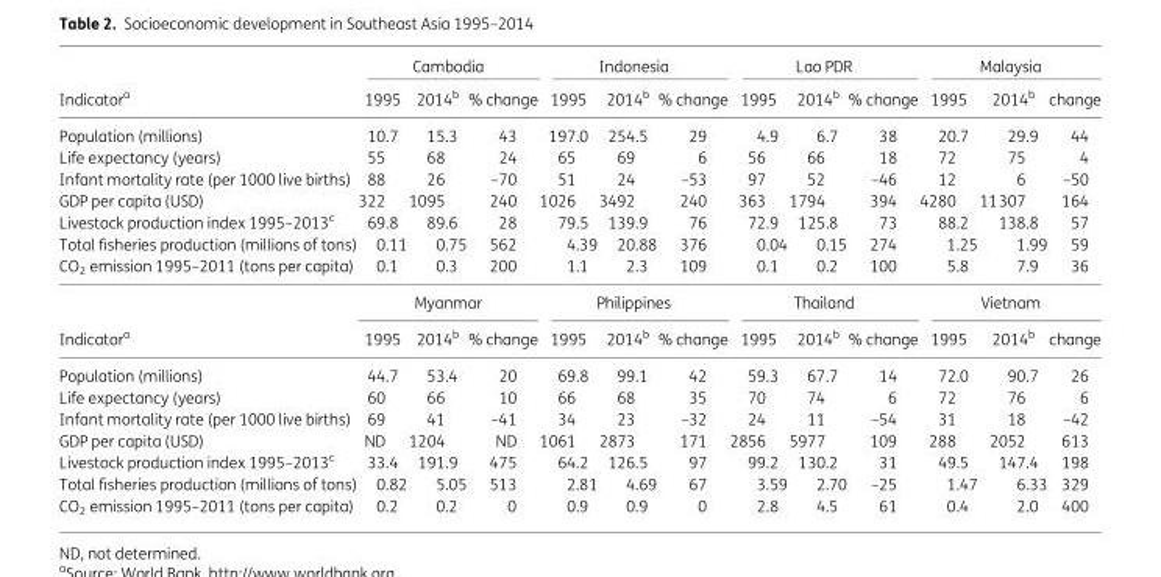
<table><thead><tr><td rowspan="2">Indicator<sup>a</sup></td><td colspan="3">Cambodia</td><td colspan="3">Indonesia</td><td colspan="3">Lao PDR</td><td colspan="3">Malaysia</td></tr><tr><td>1995</td><td>2014<sup>b</sup></td><td>% change</td><td>1995</td><td>2014<sup>b</sup></td><td>% change</td><td>1995</td><td>2014<sup>b</sup></td><td>% change</td><td>1995</td><td>2014<sup>b</sup></td><td>change</td></tr></thead><tbody><tr><td>Population (millions)</td><td>10.7</td><td>15.3</td><td>43</td><td>197.0</td><td>254.5</td><td>29</td><td>4.9</td><td>6.7</td><td>38</td><td>20.7</td><td>29.9</td><td>44</td></tr><tr><td>Life expectancy (years)</td><td>55</td><td>68</td><td>24</td><td>65</td><td>69</td><td>6</td><td>56</td><td>66</td><td>18</td><td>72</td><td>75</td><td>4</td></tr><tr><td>Infant mortality rate (per 1000 live births)</td><td>88</td><td>26</td><td>–70</td><td>51</td><td>24</td><td>–53</td><td>97</td><td>52</td><td>–46</td><td>12</td><td>6</td><td>–50</td></tr><tr><td>GDP per capita (USD)</td><td>322</td><td>1095</td><td>240</td><td>1026</td><td>3492</td><td>240</td><td>363</td><td>1794</td><td>394</td><td>4280</td><td>11307</td><td>164</td></tr><tr><td>Livestock production index 1995–2013<sup>c</sup></td><td>69.8</td><td>89.6</td><td>28</td><td>79.5</td><td>139.9</td><td>76</td><td>72.9</td><td>125.8</td><td>73</td><td>88.2</td><td>138.8</td><td>57</td></tr><tr><td>Total fisheries production (millions of tons)</td><td>0.11</td><td>0.75</td><td>562</td><td>4.39</td><td>20.88</td><td>376</td><td>0.04</td><td>0.15</td><td>274</td><td>1.25</td><td>1.99</td><td>59</td></tr><tr><td rowspan="2">CO<sub>2</sub> emission 1995–2011 (tons per capita)</td><td>0.1</td><td>0.3</td><td>200</td><td>1.1</td><td>2.3</td><td>109</td><td>0.1</td><td>0.2</td><td>100</td><td>5.8</td><td>7.9</td><td>36</td></tr><tr><td colspan="3">Myanmar</td><td colspan="3">Philippines</td><td colspan="3">Thailand</td><td colspan="3">Vietnam</td></tr><tr><td>Indicator<sup>a</sup></td><td>1995</td><td>2014<sup>b</sup></td><td>% change</td><td>1995</td><td>2014<sup>b</sup></td><td>% change</td><td>1995</td><td>2014<sup>b</sup></td><td>% change</td><td>1995</td><td>2014<sup>b</sup></td><td>change</td></tr><tr><td>Population (millions)</td><td>44.7</td><td>53.4</td><td>20</td><td>69.8</td><td>99.1</td><td>42</td><td>59.3</td><td>67.7</td><td>14</td><td>72.0</td><td>90.7</td><td>26</td></tr><tr><td>Life expectancy (years)</td><td>60</td><td>66</td><td>10</td><td>66</td><td>68</td><td>35</td><td>70</td><td>74</td><td>6</td><td>72</td><td>76</td><td>6</td></tr><tr><td>Infant mortality rate (per 1000 live births)</td><td>69</td><td>41</td><td>–41</td><td>34</td><td>23</td><td>–32</td><td>24</td><td>11</td><td>–54</td><td>31</td><td>18</td><td>–42</td></tr><tr><td>GDP per capita (USD)</td><td>ND</td><td>1204</td><td>ND</td><td>1061</td><td>2873</td><td>171</td><td>2856</td><td>5977</td><td>109</td><td>288</td><td>2052</td><td>613</td></tr><tr><td>Livestock production index 1995–2013<sup>c</sup></td><td>33.4</td><td>191.9</td><td>475</td><td>64.2</td><td>126.5</td><td>97</td><td>99.2</td><td>130.2</td><td>31</td><td>49.5</td><td>147.4</td><td>198</td></tr><tr><td>Total fisheries production (millions of tons)</td><td>0.82</td><td>5.05</td><td>513</td><td>2.81</td><td>4.69</td><td>67</td><td>3.59</td><td>2.70</td><td>–25</td><td>1.47</td><td>6.33</td><td>329</td></tr><tr><td>CO<sub>2</sub> emission 1995–2011 (tons per capita)</td><td>0.2</td><td>0.2</td><td>0</td><td>0.9</td><td>0.9</td><td>0</td><td>2.8</td><td>4.5</td><td>61</td><td>0.4</td><td>2.0</td><td>400</td></tr></tbody></table>